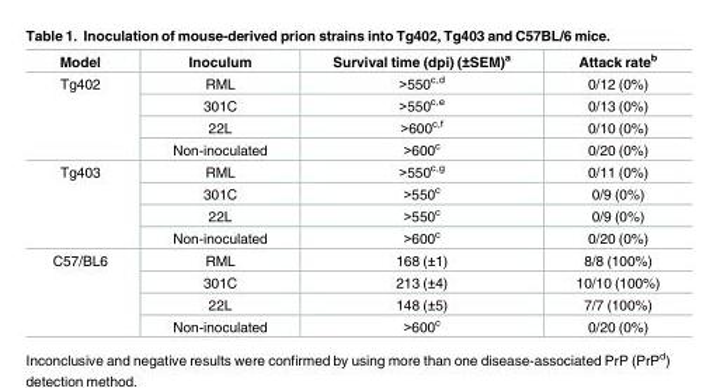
<table><thead><tr><td>Model</td><td>Inoculum</td><td>Survival time (dpi) (±SEM)<sup>a</sup></td><td>Attack rate<sup>b</sup></td></tr></thead><tbody><tr><td rowspan="4">Tg402</td><td>RML</td><td>&gt;550<sup>c,d</sup></td><td>0/12 (0%)</td></tr><tr><td>301C</td><td>&gt;550<sup>c,e</sup></td><td>0/13 (0%)</td></tr><tr><td>22L</td><td>&gt;600<sup>c,f</sup></td><td>0/10 (0%)</td></tr><tr><td>Non-inoculated</td><td>&gt;600<sup>c</sup></td><td>0/20 (0%)</td></tr><tr><td rowspan="4">Tg403</td><td>RML</td><td>&gt;550<sup>c,g</sup></td><td>0/11 (0%)</td></tr><tr><td>301C</td><td>&gt;550<sup>c</sup></td><td>0/9 (0%)</td></tr><tr><td>22L</td><td>&gt;550<sup>c</sup></td><td>0/9 (0%)</td></tr><tr><td>Non-inoculated</td><td>&gt;600<sup>c</sup></td><td>0/20 (0%)</td></tr><tr><td rowspan="4">C57/BL6</td><td>RML</td><td>168 (±1)</td><td>8/8 (100%)</td></tr><tr><td>301C</td><td>213 (±4)</td><td>10/10 (100%)</td></tr><tr><td>22L</td><td>148 (±5)</td><td>7/7 (100%)</td></tr><tr><td>Non-inoculated</td><td>&gt;600<sup>c</sup></td><td>0/20 (0%)</td></tr></tbody></table>